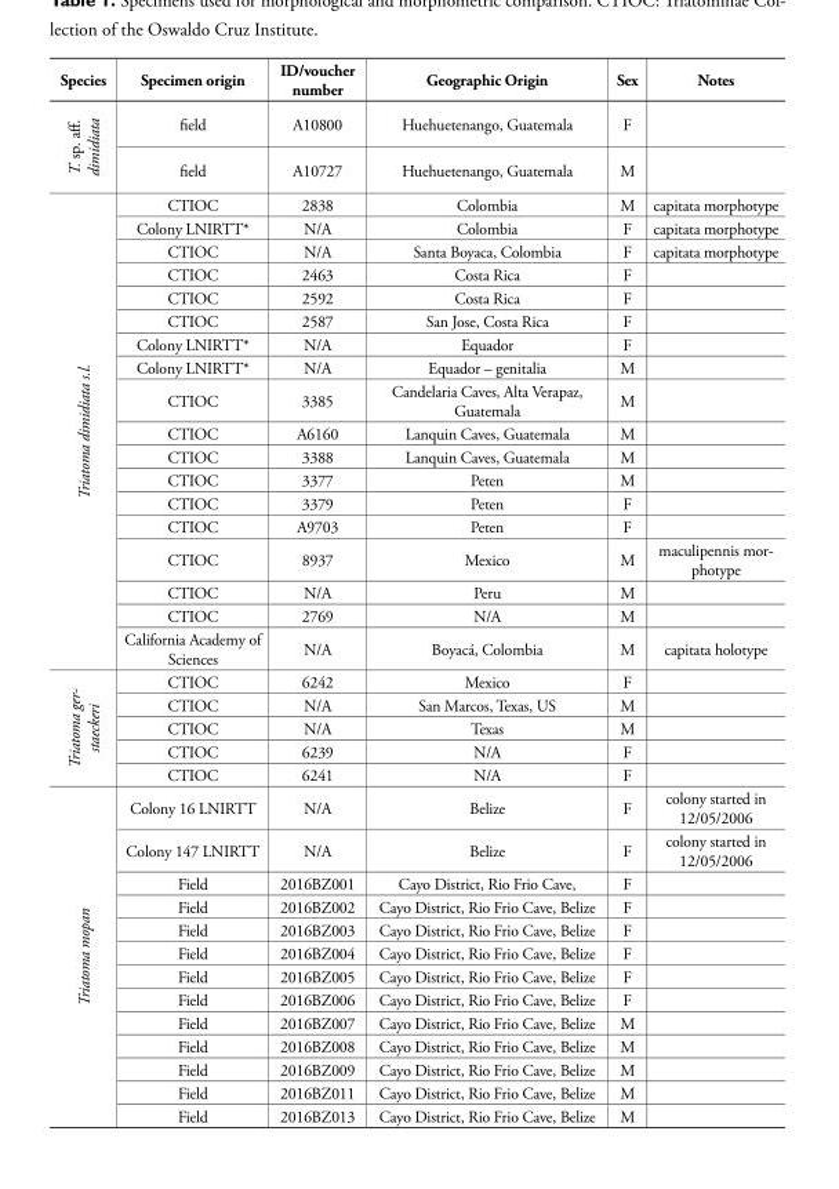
<table><thead><tr><td>Species</td><td>Specimen origin</td><td>ID/voucher number</td><td>Geographic Origin</td><td>Sex</td><td>Notes</td></tr></thead><tbody><tr><td rowspan="2">T. sp. aff. dimidiata</td><td>field</td><td>A10800</td><td>Huehuetenango, Guatemala</td><td>F</td><td></td></tr><tr><td>field</td><td>A10727</td><td>Huehuetenango, Guatemala</td><td>M</td><td></td></tr><tr><td rowspan="18">Triatoma dimidiata s.l.</td><td>CTIOC</td><td>2838</td><td>Colombia</td><td>M</td><td>capitata morphotype</td></tr><tr><td>Colony LNIRTT*</td><td>N/A</td><td>Colombia</td><td>F</td><td>capitata morphotype</td></tr><tr><td>CTIOC</td><td>N/A</td><td>Santa Boyaca, Colombia</td><td>F</td><td>capitata morphotype</td></tr><tr><td>CTIOC</td><td>2463</td><td>Costa Rica</td><td>F</td><td></td></tr><tr><td>CTIOC</td><td>2592</td><td>Costa Rica</td><td>F</td><td></td></tr><tr><td>CTIOC</td><td>2587</td><td>San Jose, Costa Rica</td><td>F</td><td></td></tr><tr><td>Colony LNIRTT*</td><td>N/A</td><td>Equador</td><td>F</td><td></td></tr><tr><td>Colony LNIRTT*</td><td>N/A</td><td>Equador – genitalia</td><td>M</td><td></td></tr><tr><td>CTIOC</td><td>3385</td><td>Candelaria Caves, Alta Verapaz, Guatemala</td><td>M</td><td></td></tr><tr><td>CTIOC</td><td>A6160</td><td>Lanquin Caves, Guatemala</td><td>M</td><td></td></tr><tr><td>CTIOC</td><td>3388</td><td>Lanquin Caves, Guatemala</td><td>M</td><td></td></tr><tr><td>CTIOC</td><td>3377</td><td>Peten</td><td>M</td><td></td></tr><tr><td>CTIOC</td><td>3379</td><td>Peten</td><td>F</td><td></td></tr><tr><td>CTIOC</td><td>A9703</td><td>Peten</td><td>F</td><td></td></tr><tr><td>CTIOC</td><td>8937</td><td>Mexico</td><td>M</td><td>maculipennis mor- photype</td></tr><tr><td>CTIOC</td><td>N/A</td><td>Peru</td><td>M</td><td></td></tr><tr><td>CTIOC</td><td>2769</td><td>N/A</td><td>M</td><td></td></tr><tr><td>California Academy of Sciences</td><td>N/A</td><td>Boyacá, Colombia</td><td>M</td><td>capitata holotype</td></tr><tr><td rowspan="5">Triatoma ger- staeckeri</td><td>CTIOC</td><td>6242</td><td>Mexico</td><td>F</td><td></td></tr><tr><td>CTIOC</td><td>N/A</td><td>San Marcos, Texas, US</td><td>M</td><td></td></tr><tr><td>CTIOC</td><td>N/A</td><td>Texas</td><td>M</td><td></td></tr><tr><td>CTIOC</td><td>6239</td><td>N/A</td><td>F</td><td></td></tr><tr><td>CTIOC</td><td>6241</td><td>N/A</td><td>F</td><td></td></tr><tr><td rowspan="13">Triatoma mopan</td><td>Colony 16 LNIRTT</td><td>N/A</td><td>Belize</td><td>F</td><td>colony started in 12/05/2006</td></tr><tr><td>Colony 147 LNIRTT</td><td>N/A</td><td>Belize</td><td>F</td><td>colony started in 12/05/2006</td></tr><tr><td>Field</td><td>2016BZ001</td><td>Cayo District, Rio Frio Cave,</td><td>F</td><td></td></tr><tr><td>Field</td><td>2016BZ002</td><td>Cayo District, Rio Frio Cave, Belize</td><td>F</td><td></td></tr><tr><td>Field</td><td>2016BZ003</td><td>Cayo District, Rio Frio Cave, Belize</td><td>F</td><td></td></tr><tr><td>Field</td><td>2016BZ004</td><td>Cayo District, Rio Frio Cave, Belize</td><td>F</td><td></td></tr><tr><td>Field</td><td>2016BZ005</td><td>Cayo District, Rio Frio Cave, Belize</td><td>F</td><td></td></tr><tr><td>Field</td><td>2016BZ006</td><td>Cayo District, Rio Frio Cave, Belize</td><td>F</td><td></td></tr><tr><td>Field</td><td>2016BZ007</td><td>Cayo District, Rio Frio Cave, Belize</td><td>M</td><td></td></tr><tr><td>Field</td><td>2016BZ008</td><td>Cayo District, Rio Frio Cave, Belize</td><td>M</td><td></td></tr><tr><td>Field</td><td>2016BZ009</td><td>Cayo District, Rio Frio Cave, Belize</td><td>M</td><td></td></tr><tr><td>Field</td><td>2016BZ011</td><td>Cayo District, Rio Frio Cave, Belize</td><td>M</td><td></td></tr><tr><td>Field</td><td>2016BZ013</td><td>Cayo District, Rio Frio Cave, Belize</td><td>M</td><td></td></tr></tbody></table>